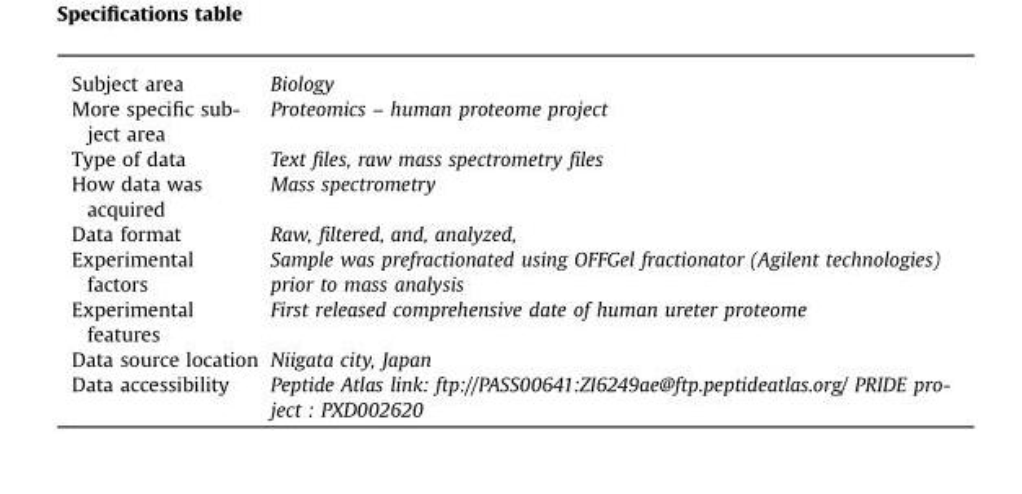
<table><tbody><tr><td>Subject area</td><td>Biology</td></tr><tr><td>More specific sub- ject area</td><td>Proteomics – human proteome project</td></tr><tr><td>Type of data</td><td>Text files, raw mass spectrometry files</td></tr><tr><td>How data was acquired</td><td>Mass spectrometry</td></tr><tr><td>Data format</td><td>Raw, filtered, and, analyzed,</td></tr><tr><td>Experimental factors</td><td>Sample was prefractionated using OFFGel fractionator (Agilent technologies) prior to mass analysis</td></tr><tr><td>Experimental features</td><td>First released comprehensive date of human ureter proteome</td></tr><tr><td>Data source location</td><td>Niigata city, Japan</td></tr><tr><td>Data accessibility</td><td>Peptide Atlas link: ftp://PASS00641:ZI6249ae@ftp.peptideatlas.org/ PRIDE pro- ject : PXD002620</td></tr></tbody></table>